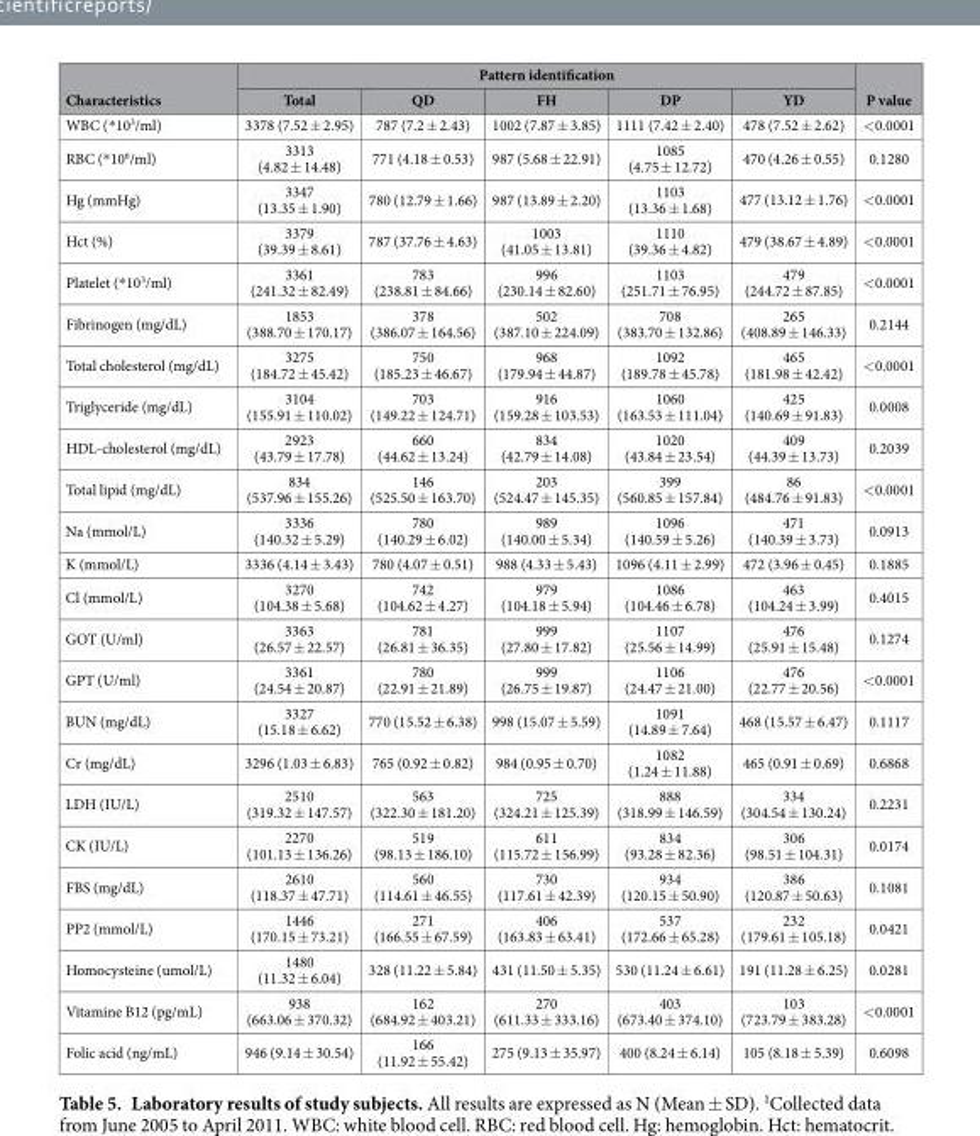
<table><thead><tr><td rowspan="2">Characteristics</td><td colspan="5">Pattern identification</td><td rowspan="2">P value</td></tr><tr><td>Total</td><td>QD</td><td>FH</td><td>DP</td><td>YD</td></tr></thead><tbody><tr><td>WBC (* 10<sup>3</sup>/ml)</td><td>3378 (7.52 ± 2.95)</td><td>787 (7.2 ± 2.43)</td><td>1002 (7.87 ± 3.85)</td><td>1111 (7.42 ± 2.40)</td><td>478 (7.52 ± 2.62)</td><td>&lt; 0.0001</td></tr><tr><td>RBC (* 10<sup>6</sup>/ml)</td><td>3313 (4.82 ± 14.48)</td><td>771 (4.18 ± 0.53)</td><td>987 (5.68 ± 22.91)</td><td>1085 (4.75 ± 12.72)</td><td>470 (4.26 ± 0.55)</td><td>0.1280</td></tr><tr><td>Hg (mmHg)</td><td>3347 (13.35 ± 1.90)</td><td>780 (12.79 ± 1.66)</td><td>987 (13.89 ± 2.20)</td><td>1103 (13.36 ± 1.68)</td><td>477 (13.12 ± 1.76)</td><td>&lt; 0.0001</td></tr><tr><td>Hct (%)</td><td>3379 (39.39 ± 8.61)</td><td>787 (37.76 ± 4.63)</td><td>1003 (41.05 ± 13.81)</td><td>1110 (39.36 ± 4.82)</td><td>479 (38.67 ± 4.89)</td><td>&lt; 0.0001</td></tr><tr><td>Platelet (* 10<sup>3</sup>/ml)</td><td>3361 (241.32 ± 82.49)</td><td>783 (238.81 ± 84.66)</td><td>996 (230.14 ± 82.60)</td><td>1103 (251.71 ± 76.95)</td><td>479 (244.72 ± 87.85)</td><td>&lt; 0.0001</td></tr><tr><td>Fibrinogen (mg/dL)</td><td>1853 (388.70 ± 170.17)</td><td>378 (386.07 ± 164.56)</td><td>502 (387.10 ± 224.09)</td><td>708 (383.70 ± 132.86)</td><td>265 (408.89 ± 146.33)</td><td>0.2144</td></tr><tr><td>Total cholesterol (mg/dL)</td><td>3275 (184.72 ± 45.42)</td><td>750 (185.23 ± 46.67)</td><td>968 (179.94 ± 44.87)</td><td>1092 (189.78 ± 45.78)</td><td>465 (181.98 ± 42.42)</td><td>&lt; 0.0001</td></tr><tr><td>Triglyceride (mg/dL)</td><td>3104 (155.91 ± 110.02)</td><td>703 (149.22 ± 124.71)</td><td>916 (159.28 ± 103.53)</td><td>1060 (163.53 ± 111.04)</td><td>425 (140.69 ± 91.83)</td><td>0.0008</td></tr><tr><td>HDL-cholesterol (mg/dL)</td><td>2923 (43.79 ± 17.78)</td><td>660 (44.62 ± 13.24)</td><td>834 (42.79 ± 14.08)</td><td>1020 (43.84 ± 23.54)</td><td>409 (44.39 ± 13.73)</td><td>0.2039</td></tr><tr><td>Total lipid (mg/dL)</td><td>834 (537.96 ± 155.26)</td><td>146 (525.50 ± 163.70)</td><td>203 (524.47 ± 145.35)</td><td>399 (560.85 ± 157.84)</td><td>86 (484.76 ± 91.83)</td><td>&lt; 0.0001</td></tr><tr><td>Na (mmol/L)</td><td>3336 (140.32 ± 5.29)</td><td>780 (140.29 ± 6.02)</td><td>989 (140.00 ± 5.34)</td><td>1096 (140.59 ± 5.26)</td><td>471 (140.39 ± 3.73)</td><td>0.0913</td></tr><tr><td>K (mmol/L)</td><td>3336 (4.14 ± 3.43)</td><td>780 (4.07 ± 0.51)</td><td>988 (4.33 ± 5.43)</td><td>1096 (4.11 ± 2.99)</td><td>472 (3.96 ± 0.45)</td><td>0.1885</td></tr><tr><td>Cl (mmol/L)</td><td>3270 (104.38 ± 5.68)</td><td>742 (104.62 ± 4.27)</td><td>979 (104.18 ± 5.94)</td><td>1086 (104.46 ± 6.78)</td><td>463 (104.24 ± 3.99)</td><td>0.4015</td></tr><tr><td>GOT (U/ml)</td><td>3363 (26.57 ± 22.57)</td><td>781 (26.81 ± 36.35)</td><td>999 (27.80 ± 17.82)</td><td>1107 (25.56 ± 14.99)</td><td>476 (25.91 ± 15.48)</td><td>0.1274</td></tr><tr><td>GPT (U/ml)</td><td>3361 (24.54 ± 20.87)</td><td>780 (22.91 ± 21.89)</td><td>999 (26.75 ± 19.87)</td><td>1106 (24.47 ± 21.00)</td><td>476 (22.77 ± 20.56)</td><td>&lt; 0.0001</td></tr><tr><td>BUN (mg/dL)</td><td>3327 (15.18 ± 6.62)</td><td>770 (15.52 ± 6.38)</td><td>998 (15.07 ± 5.59)</td><td>1091 (14.89 ± 7.64)</td><td>468 (15.57 ± 6.47)</td><td>0.1117</td></tr><tr><td>Cr (mg/dL)</td><td>3296 (1.03 ± 6.83)</td><td>765 (0.92 ± 0.82)</td><td>984 (0.95 ± 0.70)</td><td>1082 (1.24 ± 11.88)</td><td>465 (0.91 ± 0.69)</td><td>0.6868</td></tr><tr><td>LDH (IU/L)</td><td>2510 (319.32 ± 147.57)</td><td>563 (322.30 ± 181.20)</td><td>725 (324.21 ± 125.39)</td><td>888 (318.99 ± 146.59)</td><td>334 (304.54 ± 130.24)</td><td>0.2231</td></tr><tr><td>CK (IU/L)</td><td>2270 (101.13 ± 136.26)</td><td>519 (98.13 ± 186.10)</td><td>611 (115.72 ± 156.99)</td><td>834 (93.28 ± 82.36)</td><td>306 (98.51 ± 104.31)</td><td>0.0174</td></tr><tr><td>FBS (mg/dL)</td><td>2610 (118.37 ± 47.71)</td><td>560 (114.61 ± 46.55)</td><td>730 (117.61 ± 42.39)</td><td>934 (120.15 ± 50.90)</td><td>386 (120.87 ± 50.63)</td><td>0.1081</td></tr><tr><td>PP2 (mmol/L)</td><td>1446 (170.15 ± 73.21)</td><td>271 (166.55 ± 67.59)</td><td>406 (163.83 ± 63.41)</td><td>537 (172.66 ± 65.28)</td><td>232 (179.61 ± 105.18)</td><td>0.0421</td></tr><tr><td>Homocysteine (umol/L)</td><td>1480 (11.32 ± 6.04)</td><td>328 (11.22 ± 5.84)</td><td>431 (11.50 ± 5.35)</td><td>530 (11.24 ± 6.61)</td><td>191 (11.28 ± 6.25)</td><td>0.0281</td></tr><tr><td>Vitamine B12 (pg/mL)</td><td>938 (663.06 ± 370.32)</td><td>162 (684.92 ± 403.21)</td><td>270 (611.33 ± 333.16)</td><td>403 (673.40 ± 374.10)</td><td>103 (723.79 ± 383.28)</td><td>&lt; 0.0001</td></tr><tr><td>Folic acid (ng/mL)</td><td>946 (9.14 ± 30.54)</td><td>166 (11.92 ± 55.42)</td><td>275 (9.13 ± 35.97)</td><td>400 (8.24 ± 6.14)</td><td>105 (8.18 ± 5.39)</td><td>0.6098</td></tr></tbody></table>